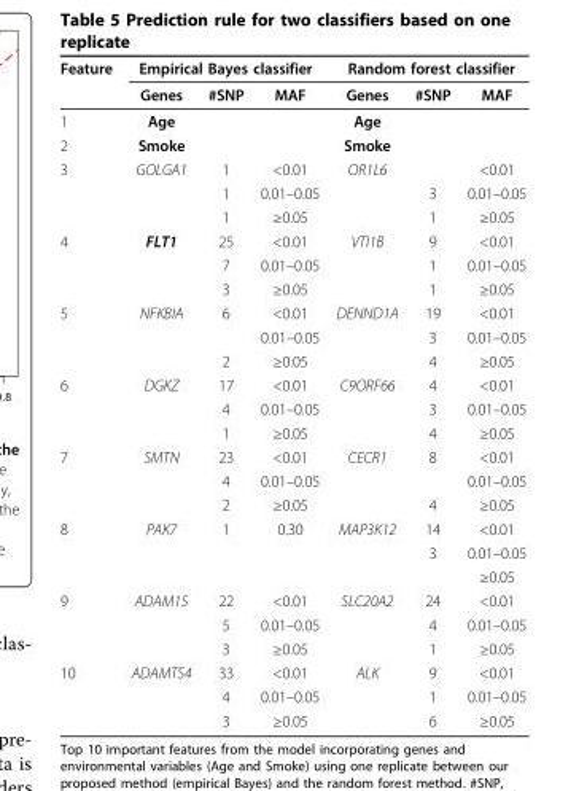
<table><thead><tr><td rowspan="2">Feature</td><td colspan="3">Empirical Bayes classifier</td><td colspan="3">Random forest classifier</td></tr><tr><td>Genes</td><td>#SNP</td><td>MAF</td><td>Genes</td><td>#SNP</td><td>MAF</td></tr></thead><tbody><tr><td>1</td><td>Age</td><td></td><td></td><td>Age</td><td></td><td></td></tr><tr><td>2</td><td>Smoke</td><td></td><td></td><td>Smoke</td><td></td><td></td></tr><tr><td rowspan="3">3</td><td>GOLGA1</td><td>1</td><td>&lt;0.01</td><td>OR1L6</td><td></td><td>&lt;0.01</td></tr><tr><td></td><td>1</td><td>0.01–0.05</td><td></td><td>3</td><td>0.01–0.05</td></tr><tr><td></td><td>1</td><td>≥0.05</td><td></td><td>1</td><td>≥0.05</td></tr><tr><td rowspan="3">4</td><td>FLT1</td><td>25</td><td>&lt;0.01</td><td>VTI1B</td><td>9</td><td>&lt;0.01</td></tr><tr><td></td><td>7</td><td>0.01–0.05</td><td></td><td>1</td><td>0.01–0.05</td></tr><tr><td></td><td>3</td><td>≥0.05</td><td></td><td>1</td><td>≥0.05</td></tr><tr><td rowspan="3">5</td><td>NFKBIA</td><td>6</td><td>&lt;0.01</td><td>DENND1A</td><td>19</td><td>&lt;0.01</td></tr><tr><td></td><td></td><td>0.01–0.05</td><td></td><td>3</td><td>0.01–0.05</td></tr><tr><td></td><td>2</td><td>≥0.05</td><td></td><td>4</td><td>≥0.05</td></tr><tr><td rowspan="3">6</td><td>DGKZ</td><td>17</td><td>&lt;0.01</td><td>C9ORF66</td><td>4</td><td>&lt;0.01</td></tr><tr><td></td><td>4</td><td>0.01–0.05</td><td></td><td>3</td><td>0.01–0.05</td></tr><tr><td></td><td>1</td><td>≥0.05</td><td></td><td>4</td><td>≥0.05</td></tr><tr><td rowspan="3">7</td><td>SMTN</td><td>23</td><td>&lt;0.01</td><td>CECR1</td><td>8</td><td>&lt;0.01</td></tr><tr><td></td><td>4</td><td>0.01–0.05</td><td></td><td></td><td>0.01–0.05</td></tr><tr><td></td><td>2</td><td>≥0.05</td><td></td><td>4</td><td>≥0.05</td></tr><tr><td rowspan="3">8</td><td>PAK7</td><td>1</td><td>0.30</td><td>MAP3K12</td><td>14</td><td>&lt;0.01</td></tr><tr><td></td><td></td><td></td><td></td><td>3</td><td>0.01–0.05</td></tr><tr><td></td><td></td><td></td><td></td><td></td><td>≥0.05</td></tr><tr><td rowspan="3">9</td><td>ADAM15</td><td>22</td><td>&lt;0.01</td><td>SLC20A2</td><td>24</td><td>&lt;0.01</td></tr><tr><td></td><td>5</td><td>0.01–0.05</td><td></td><td>4</td><td>0.01–0.05</td></tr><tr><td></td><td>3</td><td>≥0.05</td><td></td><td>1</td><td>≥0.05</td></tr><tr><td rowspan="3">10</td><td>ADAMTS4</td><td>33</td><td>&lt;0.01</td><td>ALK</td><td>9</td><td>&lt;0.01</td></tr><tr><td></td><td>4</td><td>0.01–0.05</td><td></td><td>1</td><td>0.01–0.05</td></tr><tr><td></td><td>3</td><td>≥0.05</td><td></td><td>6</td><td>≥0.05</td></tr></tbody></table>